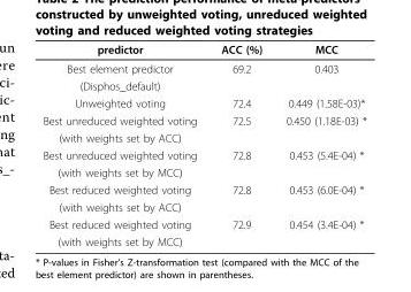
<table><thead><tr><td>predictor</td><td>ACC (%)</td><td>MCC</td></tr></thead><tbody><tr><td>Best element predictor</td><td>69.2</td><td>0.403</td></tr><tr><td colspan="3">(Disphos_default)</td></tr><tr><td>Unweighted voting</td><td>72.4</td><td>0.449 (1.58E-03)*</td></tr><tr><td>Best unreduced weighted voting</td><td>72.5</td><td>0.450 (1.18E-03) *</td></tr><tr><td colspan="3">(with weights set by ACC)</td></tr><tr><td>Best unreduced weighted voting</td><td>72.8</td><td>0.453 (5.4E-04) *</td></tr><tr><td colspan="3">(with weights set by MCC)</td></tr><tr><td>Best reduced weighted voting</td><td>72.8</td><td>0.453 (6.0E-04) *</td></tr><tr><td colspan="3">(with weights set by ACC)</td></tr><tr><td>Best reduced weighted voting</td><td>72.9</td><td>0.454 (3.4E-04) *</td></tr><tr><td>(with weights set by MCC)</td><td></td><td></td></tr></tbody></table>